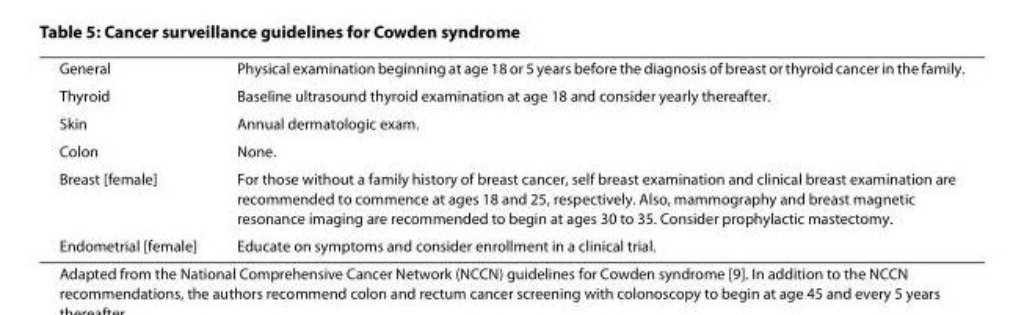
<table><tbody><tr><td>General</td><td>Physical examination beginning at age 18 or 5 years before the diagnosis of breast or thyroid cancer in the family.</td></tr><tr><td>Thyroid</td><td>Baseline ultrasound thyroid examination at age 18 and consider yearly thereafter.</td></tr><tr><td>Skin</td><td>Annual dermatologic exam.</td></tr><tr><td>Colon</td><td>None.</td></tr><tr><td>Breast [female]</td><td>For those without a family history of breast cancer, self breast examination and clinical breast examination are recommended to commence at ages 18 and 25, respectively. Also, mammography and breast magnetic resonance imaging are recommended to begin at ages 30 to 35. Consider prophylactic mastectomy.</td></tr><tr><td>Endometrial [female]</td><td>Educate on symptoms and consider enrollment in a clinical trial.</td></tr></tbody></table>